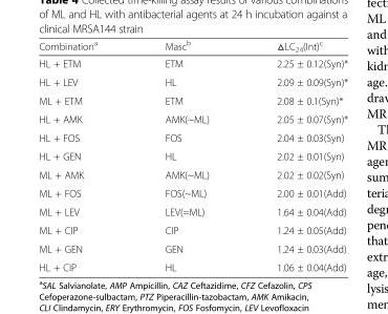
<table><thead><tr><td>Combination<sup>a</sup></td><td>Masc<sup>b</sup></td><td>△LC<sub>24</sub>(Int)<sup>c</sup></td></tr></thead><tbody><tr><td>HL + ETM</td><td>ETM</td><td>2.25 ± 0.12(Syn)*</td></tr><tr><td>HL + LEV</td><td>HL</td><td>2.09 ± 0.09(Syn)*</td></tr><tr><td>ML + ETM</td><td>ETM</td><td>2.08 ± 0.1(Syn)*</td></tr><tr><td>HL + AMK</td><td>AMK(~ML)</td><td>2.05 ± 0.07(Syn)*</td></tr><tr><td>HL + FOS</td><td>FOS</td><td>2.04 ± 0.03(Syn)</td></tr><tr><td>HL + GEN</td><td>HL</td><td>2.02 ± 0.01(Syn)</td></tr><tr><td>ML + AMK</td><td>AMK(~ML)</td><td>2.02 ± 0.02(Syn)</td></tr><tr><td>ML + FOS</td><td>FOS(~ML)</td><td>2.00 ± 0.01(Add)</td></tr><tr><td>ML + LEV</td><td>LEV(=ML)</td><td>1.64 ± 0.04(Add)</td></tr><tr><td>ML + CIP</td><td>CIP</td><td>1.24 ± 0.05(Add)</td></tr><tr><td>ML + GEN</td><td>GEN</td><td>1.24 ± 0.03(Add)</td></tr><tr><td>HL + CIP</td><td>HL</td><td>1.06 ± 0.04(Add)</td></tr></tbody></table>